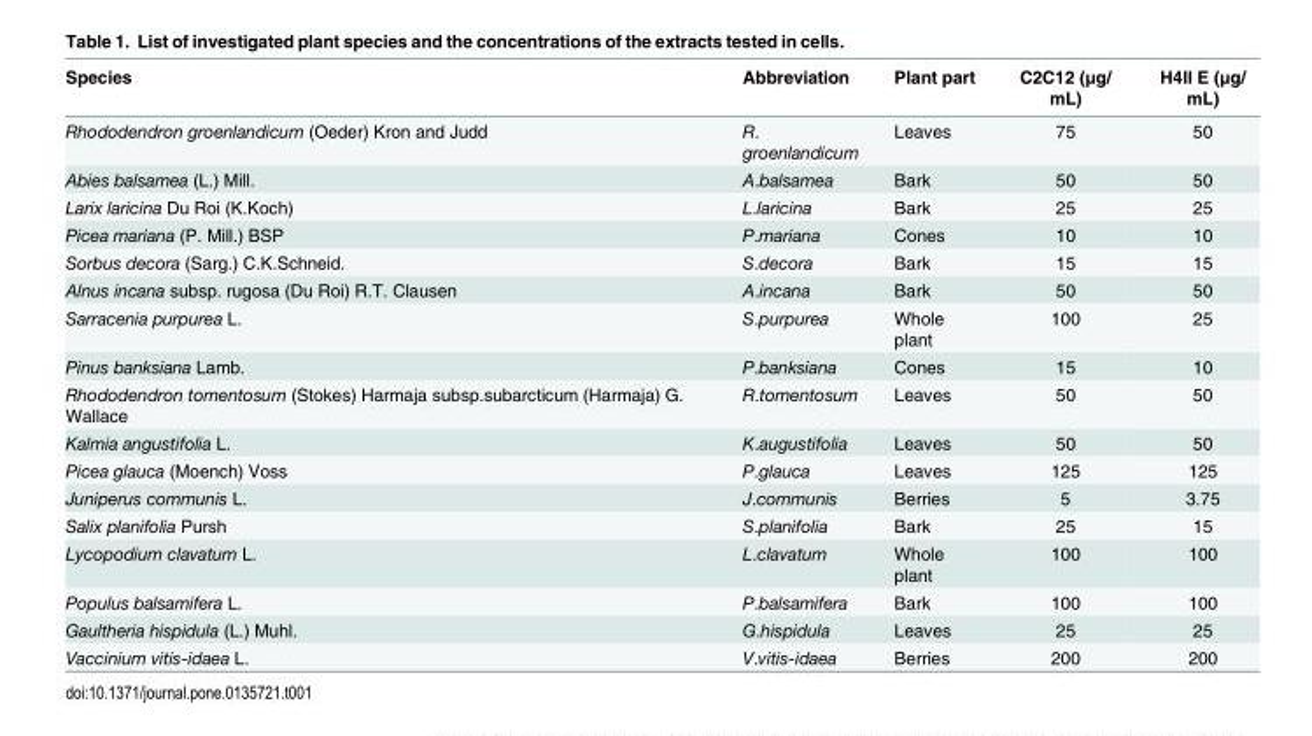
<table><thead><tr><td>Species</td><td>Abbreviation</td><td>Plant part</td><td>C2C12 (μg/ mL)</td><td>H4II E (μg/ mL)</td></tr></thead><tbody><tr><td>Rhododendron groenlandicum (Oeder) Kron and Judd</td><td>R. groenlandicum</td><td>Leaves</td><td>75</td><td>50</td></tr><tr><td>Abies balsamea (L.) Mill.</td><td>A.balsamea</td><td>Bark</td><td>50</td><td>50</td></tr><tr><td>Larix laricina Du Roi (K.Koch)</td><td>L.laricina</td><td>Bark</td><td>25</td><td>25</td></tr><tr><td>Picea mariana (P. Mill.) BSP</td><td>P.mariana</td><td>Cones</td><td>10</td><td>10</td></tr><tr><td>Sorbus decora (Sarg.) C.K.Schneid.</td><td>S.decora</td><td>Bark</td><td>15</td><td>15</td></tr><tr><td>Alnus incana subsp. rugosa (Du Roi) R.T. Clausen</td><td>A.incana</td><td>Bark</td><td>50</td><td>50</td></tr><tr><td>Sarracenia purpurea L.</td><td>S.purpurea</td><td>Whole plant</td><td>100</td><td>25</td></tr><tr><td>Pinus banksiana Lamb.</td><td>P.banksiana</td><td>Cones</td><td>15</td><td>10</td></tr><tr><td>Rhododendron tomentosum (Stokes) Harmaja subsp.subarcticum (Harmaja) G. Wallace</td><td>R.tomentosum</td><td>Leaves</td><td>50</td><td>50</td></tr><tr><td>Kalmia angustifolia L.</td><td>K.augustifolia</td><td>Leaves</td><td>50</td><td>50</td></tr><tr><td>Picea glauca (Moench) Voss</td><td>P.glauca</td><td>Leaves</td><td>125</td><td>125</td></tr><tr><td>Juniperus communis L.</td><td>J.communis</td><td>Berries</td><td>5</td><td>3.75</td></tr><tr><td>Salix planifolia Pursh</td><td>S.planifolia</td><td>Bark</td><td>25</td><td>15</td></tr><tr><td>Lycopodium clavatum L.</td><td>L.clavatum</td><td>Whole plant</td><td>100</td><td>100</td></tr><tr><td>Populus balsamifera L.</td><td>P.balsamifera</td><td>Bark</td><td>100</td><td>100</td></tr><tr><td>Gaultheria hispidula (L.) Muhl.</td><td>G.hispidula</td><td>Leaves</td><td>25</td><td>25</td></tr><tr><td>Vaccinium vitis-idaea L.</td><td>V.vitis-idaea</td><td>Berries</td><td>200</td><td>200</td></tr></tbody></table>